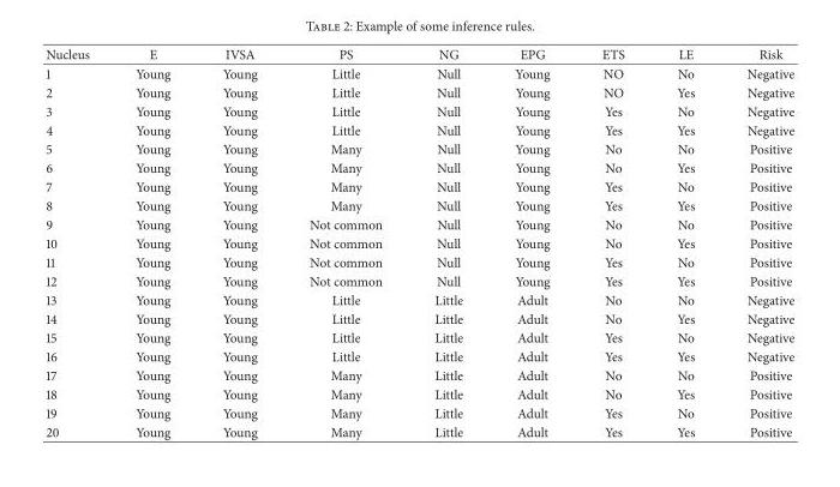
<table><thead><tr><td>Nucleus</td><td>E</td><td>IVSA</td><td>PS</td><td>NG</td><td>EPG</td><td>ETS</td><td>LE</td><td>Risk</td></tr></thead><tbody><tr><td>1</td><td>Young</td><td>Young</td><td>Little</td><td>Null</td><td>Young</td><td>NO</td><td>No</td><td>Negative</td></tr><tr><td>2</td><td>Young</td><td>Young</td><td>Little</td><td>Null</td><td>Young</td><td>NO</td><td>Yes</td><td>Negative</td></tr><tr><td>3</td><td>Young</td><td>Young</td><td>Little</td><td>Null</td><td>Young</td><td>Yes</td><td>No</td><td>Negative</td></tr><tr><td>4</td><td>Young</td><td>Young</td><td>Little</td><td>Null</td><td>Young</td><td>Yes</td><td>Yes</td><td>Negative</td></tr><tr><td>5</td><td>Young</td><td>Young</td><td>Many</td><td>Null</td><td>Young</td><td>No</td><td>No</td><td>Positive</td></tr><tr><td>6</td><td>Young</td><td>Young</td><td>Many</td><td>Null</td><td>Young</td><td>No</td><td>Yes</td><td>Positive</td></tr><tr><td>7</td><td>Young</td><td>Young</td><td>Many</td><td>Null</td><td>Young</td><td>Yes</td><td>No</td><td>Positive</td></tr><tr><td>8</td><td>Young</td><td>Young</td><td>Many</td><td>Null</td><td>Young</td><td>Yes</td><td>Yes</td><td>Positive</td></tr><tr><td>9</td><td>Young</td><td>Young</td><td>Not common</td><td>Null</td><td>Young</td><td>No</td><td>No</td><td>Positive</td></tr><tr><td>10</td><td>Young</td><td>Young</td><td>Not common</td><td>Null</td><td>Young</td><td>No</td><td>Yes</td><td>Positive</td></tr><tr><td>11</td><td>Young</td><td>Young</td><td>Not common</td><td>Null</td><td>Young</td><td>Yes</td><td>No</td><td>Positive</td></tr><tr><td>12</td><td>Young</td><td>Young</td><td>Not common</td><td>Null</td><td>Young</td><td>Yes</td><td>Yes</td><td>Positive</td></tr><tr><td>13</td><td>Young</td><td>Young</td><td>Little</td><td>Little</td><td>Adult</td><td>No</td><td>No</td><td>Negative</td></tr><tr><td>14</td><td>Young</td><td>Young</td><td>Little</td><td>Little</td><td>Adult</td><td>No</td><td>Yes</td><td>Negative</td></tr><tr><td>15</td><td>Young</td><td>Young</td><td>Little</td><td>Little</td><td>Adult</td><td>Yes</td><td>No</td><td>Negative</td></tr><tr><td>16</td><td>Young</td><td>Young</td><td>Little</td><td>Little</td><td>Adult</td><td>Yes</td><td>Yes</td><td>Negative</td></tr><tr><td>17</td><td>Young</td><td>Young</td><td>Many</td><td>Little</td><td>Adult</td><td>No</td><td>No</td><td>Positive</td></tr><tr><td>18</td><td>Young</td><td>Young</td><td>Many</td><td>Little</td><td>Adult</td><td>No</td><td>Yes</td><td>Positive</td></tr><tr><td>19</td><td>Young</td><td>Young</td><td>Many</td><td>Little</td><td>Adult</td><td>Yes</td><td>No</td><td>Positive</td></tr><tr><td>20</td><td>Young</td><td>Young</td><td>Many</td><td>Little</td><td>Adult</td><td>Yes</td><td>Yes</td><td>Positive</td></tr></tbody></table>